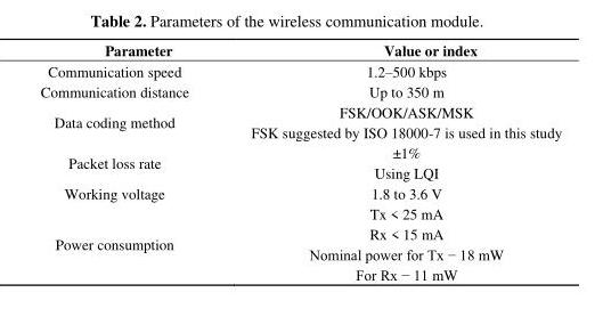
<table><thead><tr><td>Parameter</td><td>Value or index</td></tr></thead><tbody><tr><td>Communication speed</td><td>1.2–500 kbps</td></tr><tr><td>Communication distance</td><td>Up to 350 m</td></tr><tr><td>Data coding method</td><td>FSK/OOK/ASK/MSK FSK suggested by ISO 18000-7 is used in this study</td></tr><tr><td>Packet loss rate</td><td>±1% Using LQI</td></tr><tr><td>Working voltage</td><td>1.8 to 3.6 V</td></tr><tr><td>Power consumption</td><td>Tx &lt; 25 mA Rx &lt; 15 mA Nominal power for Tx − 18 mW For Rx − 11 mW</td></tr></tbody></table>